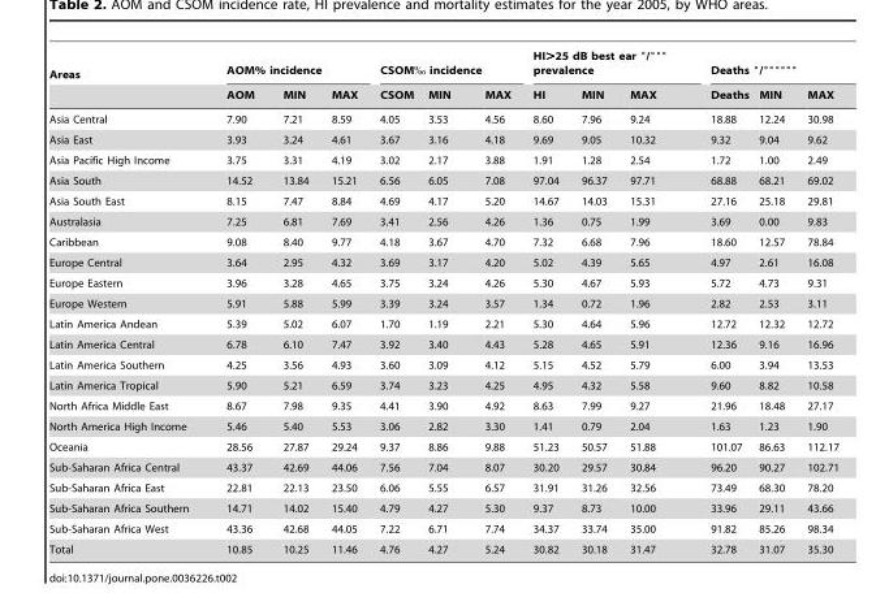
<table><thead><tr><td rowspan="2">Areas</td><td colspan="3">AOM% incidence</td><td colspan="3">CSOM‰ incidence</td><td colspan="3">HI&gt;25 dB best ear °/°°° prevalence</td><td colspan="3">Deaths °/°°°°°°</td></tr><tr><td>AOM</td><td>MIN</td><td>MAX</td><td>CSOM</td><td>MIN</td><td>MAX</td><td>HI</td><td>MIN</td><td>MAX</td><td>Deaths</td><td>MIN</td><td>MAX</td></tr></thead><tbody><tr><td>Asia Central</td><td>7.90</td><td>7.21</td><td>8.59</td><td>4.05</td><td>3.53</td><td>4.56</td><td>8.60</td><td>7.96</td><td>9.24</td><td>18.88</td><td>12.24</td><td>30.98</td></tr><tr><td>Asia East</td><td>3.93</td><td>3.24</td><td>4.61</td><td>3.67</td><td>3.16</td><td>4.18</td><td>9.69</td><td>9.05</td><td>10.32</td><td>9.32</td><td>9.04</td><td>9.62</td></tr><tr><td>Asia Pacific High Income</td><td>3.75</td><td>3.31</td><td>4.19</td><td>3.02</td><td>2.17</td><td>3.88</td><td>1.91</td><td>1.28</td><td>2.54</td><td>1.72</td><td>1.00</td><td>2.49</td></tr><tr><td>Asia South</td><td>14.52</td><td>13.84</td><td>15.21</td><td>6.56</td><td>6.05</td><td>7.08</td><td>97.04</td><td>96.37</td><td>97.71</td><td>68.88</td><td>68.21</td><td>69.02</td></tr><tr><td>Asia South East</td><td>8.15</td><td>7.47</td><td>8.84</td><td>4.69</td><td>4.17</td><td>5.20</td><td>14.67</td><td>14.03</td><td>15.31</td><td>27.16</td><td>25.18</td><td>29.81</td></tr><tr><td>Australasia</td><td>7.25</td><td>6.81</td><td>7.69</td><td>3.41</td><td>2.56</td><td>4.26</td><td>1.36</td><td>0.75</td><td>1.99</td><td>3.69</td><td>0.00</td><td>9.83</td></tr><tr><td>Caribbean</td><td>9.08</td><td>8.40</td><td>9.77</td><td>4.18</td><td>3.67</td><td>4.70</td><td>7.32</td><td>6.68</td><td>7.96</td><td>18.60</td><td>12.57</td><td>78.84</td></tr><tr><td>Europe Central</td><td>3.64</td><td>2.95</td><td>4.32</td><td>3.69</td><td>3.17</td><td>4.20</td><td>5.02</td><td>4.39</td><td>5.65</td><td>4.97</td><td>2.61</td><td>16.08</td></tr><tr><td>Europe Eastern</td><td>3.96</td><td>3.28</td><td>4.65</td><td>3.75</td><td>3.24</td><td>4.26</td><td>5.30</td><td>4.67</td><td>5.93</td><td>5.72</td><td>4.73</td><td>9.31</td></tr><tr><td>Europe Western</td><td>5.91</td><td>5.88</td><td>5.99</td><td>3.39</td><td>3.24</td><td>3.57</td><td>1.34</td><td>0.72</td><td>1.96</td><td>2.82</td><td>2.53</td><td>3.11</td></tr><tr><td>Latin America Andean</td><td>5.39</td><td>5.02</td><td>6.07</td><td>1.70</td><td>1.19</td><td>2.21</td><td>5.30</td><td>4.64</td><td>5.96</td><td>12.72</td><td>12.32</td><td>12.72</td></tr><tr><td>Latin America Central</td><td>6.78</td><td>6.10</td><td>7.47</td><td>3.92</td><td>3.40</td><td>4.43</td><td>5.28</td><td>4.65</td><td>5.91</td><td>12.36</td><td>9.16</td><td>16.96</td></tr><tr><td>Latin America Southern</td><td>4.25</td><td>3.56</td><td>4.93</td><td>3.60</td><td>3.09</td><td>4.12</td><td>5.15</td><td>4.52</td><td>5.79</td><td>6.00</td><td>3.94</td><td>13.53</td></tr><tr><td>Latin America Tropical</td><td>5.90</td><td>5.21</td><td>6.59</td><td>3.74</td><td>3.23</td><td>4.25</td><td>4.95</td><td>4.32</td><td>5.58</td><td>9.60</td><td>8.82</td><td>10.58</td></tr><tr><td>North Africa Middle East</td><td>8.67</td><td>7.98</td><td>9.35</td><td>4.41</td><td>3.90</td><td>4.92</td><td>8.63</td><td>7.99</td><td>9.27</td><td>21.96</td><td>18.48</td><td>27.17</td></tr><tr><td>North America High Income</td><td>5.46</td><td>5.40</td><td>5.53</td><td>3.06</td><td>2.82</td><td>3.30</td><td>1.41</td><td>0.79</td><td>2.04</td><td>1.63</td><td>1.23</td><td>1.90</td></tr><tr><td>Oceania</td><td>28.56</td><td>27.87</td><td>29.24</td><td>9.37</td><td>8.86</td><td>9.88</td><td>51.23</td><td>50.57</td><td>51.88</td><td>101.07</td><td>86.63</td><td>112.17</td></tr><tr><td>Sub-Saharan Africa Central</td><td>43.37</td><td>42.69</td><td>44.06</td><td>7.56</td><td>7.04</td><td>8.07</td><td>30.20</td><td>29.57</td><td>30.84</td><td>96.20</td><td>90.27</td><td>102.71</td></tr><tr><td>Sub-Saharan Africa East</td><td>22.81</td><td>22.13</td><td>23.50</td><td>6.06</td><td>5.55</td><td>6.57</td><td>31.91</td><td>31.26</td><td>32.56</td><td>73.49</td><td>68.30</td><td>78.20</td></tr><tr><td>Sub-Saharan Africa Southern</td><td>14.71</td><td>14.02</td><td>15.40</td><td>4.79</td><td>4.27</td><td>5.30</td><td>9.37</td><td>8.73</td><td>10.00</td><td>33.96</td><td>29.11</td><td>43.66</td></tr><tr><td>Sub-Saharan Africa West</td><td>43.36</td><td>42.68</td><td>44.05</td><td>7.22</td><td>6.71</td><td>7.74</td><td>34.37</td><td>33.74</td><td>35.00</td><td>91.82</td><td>85.26</td><td>98.34</td></tr><tr><td>Total</td><td>10.85</td><td>10.25</td><td>11.46</td><td>4.76</td><td>4.27</td><td>5.24</td><td>30.82</td><td>30.18</td><td>31.47</td><td>32.78</td><td>31.07</td><td>35.30</td></tr></tbody></table>